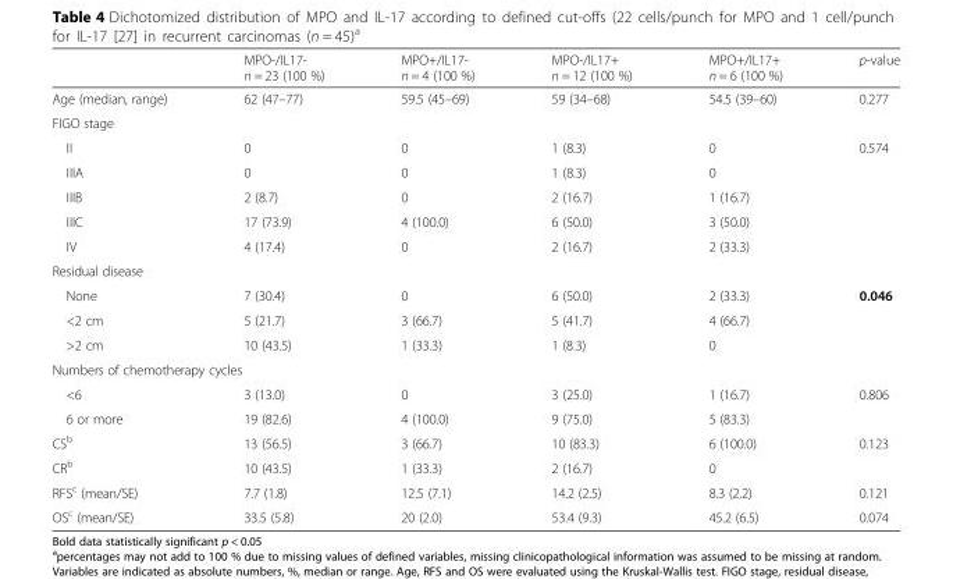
<table><thead><tr><td></td><td>MPO-/IL17- n = 23 (100 %)</td><td>MPO+/IL17- n = 4 (100 %)</td><td>MPO-/IL17+ n = 12 (100 %)</td><td>MPO+/IL17+ n = 6 (100 %)</td><td>p-value</td></tr></thead><tbody><tr><td>Age (median, range)</td><td>62 (47–77)</td><td>59.5 (45–69)</td><td>59 (34–68)</td><td>54.5 (39–60)</td><td>0.277</td></tr><tr><td colspan="6">FIGO stage</td></tr><tr><td>II</td><td>0</td><td>0</td><td>1 (8.3)</td><td>0</td><td rowspan="5">0.574</td></tr><tr><td>IIIA</td><td>0</td><td>0</td><td>1 (8.3)</td><td>0</td></tr><tr><td>IIIB</td><td>2 (8.7)</td><td>0</td><td>2 (16.7)</td><td>1 (16.7)</td></tr><tr><td>IIIC</td><td>17 (73.9)</td><td>4 (100.0)</td><td>6 (50.0)</td><td>3 (50.0)</td></tr><tr><td>IV</td><td>4 (17.4)</td><td>0</td><td>2 (16.7)</td><td>2 (33.3)</td></tr><tr><td colspan="6">Residual disease</td></tr><tr><td>None</td><td>7 (30.4)</td><td>0</td><td>6 (50.0)</td><td>2 (33.3)</td><td rowspan="3">0.046</td></tr><tr><td>&lt;2 cm</td><td>5 (21.7)</td><td>3 (66.7)</td><td>5 (41.7)</td><td>4 (66.7)</td></tr><tr><td>&gt;2 cm</td><td>10 (43.5)</td><td>1 (33.3)</td><td>1 (8.3)</td><td>0</td></tr><tr><td colspan="6">Numbers of chemotherapy cycles</td></tr><tr><td>&lt;6</td><td>3 (13.0)</td><td>0</td><td>3 (25.0)</td><td>1 (16.7)</td><td rowspan="2">0.806</td></tr><tr><td>6 or more</td><td>19 (82.6)</td><td>4 (100.0)</td><td>9 (75.0)</td><td>5 (83.3)</td></tr><tr><td>CS<sup>b</sup></td><td>13 (56.5)</td><td>3 (66.7)</td><td>10 (83.3)</td><td>6 (100.0)</td><td rowspan="2">0.123</td></tr><tr><td>CR<sup>b</sup></td><td>10 (43.5)</td><td>1 (33.3)</td><td>2 (16.7)</td><td>0</td></tr><tr><td>RFS<sup>c</sup> (mean/SE)</td><td>7.7 (1.8)</td><td>12.5 (7.1)</td><td>14.2 (2.5)</td><td>8.3 (2.2)</td><td>0.121</td></tr><tr><td>OS<sup>c</sup> (mean/SE)</td><td>33.5 (5.8)</td><td>20 (2.0)</td><td>53.4 (9.3)</td><td>45.2 (6.5)</td><td>0.074</td></tr></tbody></table>